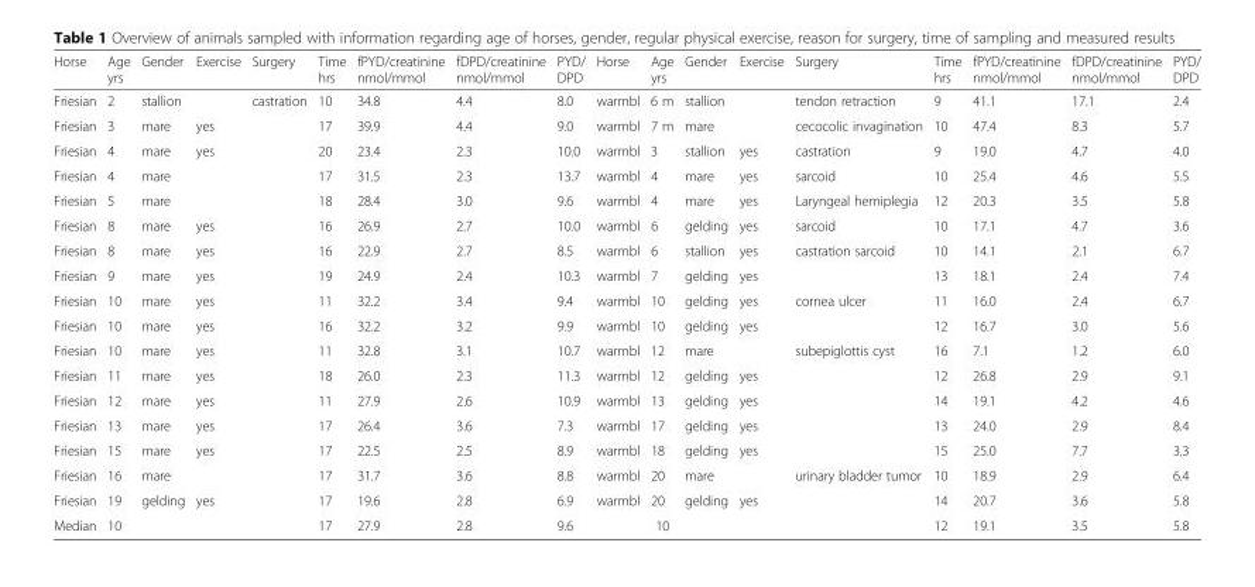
<table><thead><tr><td>Horse</td><td>Age yrs</td><td>Gender</td><td>Exercise</td><td>Surgery</td><td>Time hrs</td><td>fPYD/creatinine nmol/mmol</td><td>fDPD/creatinine nmol/mmol</td><td>PYD/ DPD</td><td>Horse</td><td>Age yrs</td><td>Gender</td><td>Exercise</td><td>Surgery</td><td>Time hrs</td><td>fPYD/creatinine nmol/mmol</td><td>fDPD/creatinine nmol/mmol</td><td>PYD/ DPD</td></tr></thead><tbody><tr><td>Friesian</td><td>2</td><td>stallion</td><td></td><td>castration</td><td>10</td><td>34.8</td><td>4.4</td><td>8.0</td><td>warmbl</td><td>6 m</td><td>stallion</td><td></td><td>tendon retraction</td><td>9</td><td>41.1</td><td>17.1</td><td>2.4</td></tr><tr><td>Friesian</td><td>3</td><td>mare</td><td>yes</td><td></td><td>17</td><td>39.9</td><td>4.4</td><td>9.0</td><td>warmbl</td><td>7 m</td><td>mare</td><td></td><td>cecocolic invagination</td><td>10</td><td>47.4</td><td>8.3</td><td>5.7</td></tr><tr><td>Friesian</td><td>4</td><td>mare</td><td>yes</td><td></td><td>20</td><td>23.4</td><td>2.3</td><td>10.0</td><td>warmbl</td><td>3</td><td>stallion</td><td>yes</td><td>castration</td><td>9</td><td>19.0</td><td>4.7</td><td>4.0</td></tr><tr><td>Friesian</td><td>4</td><td>mare</td><td></td><td></td><td>17</td><td>31.5</td><td>2.3</td><td>13.7</td><td>warmbl</td><td>4</td><td>mare</td><td>yes</td><td>sarcoid</td><td>10</td><td>25.4</td><td>4.6</td><td>5.5</td></tr><tr><td>Friesian</td><td>5</td><td>mare</td><td></td><td></td><td>18</td><td>28.4</td><td>3.0</td><td>9.6</td><td>warmbl</td><td>4</td><td>mare</td><td>yes</td><td>Laryngeal hemiplegia</td><td>12</td><td>20.3</td><td>3.5</td><td>5.8</td></tr><tr><td>Friesian</td><td>8</td><td>mare</td><td>yes</td><td></td><td>16</td><td>26.9</td><td>2.7</td><td>10.0</td><td>warmbl</td><td>6</td><td>gelding</td><td>yes</td><td>sarcoid</td><td>10</td><td>17.1</td><td>4.7</td><td>3.6</td></tr><tr><td>Friesian</td><td>8</td><td>mare</td><td>yes</td><td></td><td>16</td><td>22.9</td><td>2.7</td><td>8.5</td><td>warmbl</td><td>6</td><td>stallion</td><td>yes</td><td>castration sarcoid</td><td>10</td><td>14.1</td><td>2.1</td><td>6.7</td></tr><tr><td>Friesian</td><td>9</td><td>mare</td><td>yes</td><td></td><td>19</td><td>24.9</td><td>2.4</td><td>10.3</td><td>warmbl</td><td>7</td><td>gelding</td><td>yes</td><td></td><td>13</td><td>18.1</td><td>2.4</td><td>7.4</td></tr><tr><td>Friesian</td><td>10</td><td>mare</td><td>yes</td><td></td><td>11</td><td>32.2</td><td>3.4</td><td>9.4</td><td>warmbl</td><td>10</td><td>gelding</td><td>yes</td><td>cornea ulcer</td><td>11</td><td>16.0</td><td>2.4</td><td>6.7</td></tr><tr><td>Friesian</td><td>10</td><td>mare</td><td>yes</td><td></td><td>16</td><td>32.2</td><td>3.2</td><td>9.9</td><td>warmbl</td><td>10</td><td>gelding</td><td>yes</td><td></td><td>12</td><td>16.7</td><td>3.0</td><td>5.6</td></tr><tr><td>Friesian</td><td>10</td><td>mare</td><td>yes</td><td></td><td>11</td><td>32.8</td><td>3.1</td><td>10.7</td><td>warmbl</td><td>12</td><td>mare</td><td></td><td>subepiglottis cyst</td><td>16</td><td>7.1</td><td>1.2</td><td>6.0</td></tr><tr><td>Friesian</td><td>11</td><td>mare</td><td>yes</td><td></td><td>18</td><td>26.0</td><td>2.3</td><td>11.3</td><td>warmbl</td><td>12</td><td>gelding</td><td>yes</td><td></td><td>12</td><td>26.8</td><td>2.9</td><td>9.1</td></tr><tr><td>Friesian</td><td>12</td><td>mare</td><td>yes</td><td></td><td>11</td><td>27.9</td><td>2.6</td><td>10.9</td><td>warmbl</td><td>13</td><td>gelding</td><td>yes</td><td></td><td>14</td><td>19.1</td><td>4.2</td><td>4.6</td></tr><tr><td>Friesian</td><td>13</td><td>mare</td><td>yes</td><td></td><td>17</td><td>26.4</td><td>3.6</td><td>7.3</td><td>warmbl</td><td>17</td><td>gelding</td><td>yes</td><td></td><td>13</td><td>24.0</td><td>2.9</td><td>8.4</td></tr><tr><td>Friesian</td><td>15</td><td>mare</td><td>yes</td><td></td><td>17</td><td>22.5</td><td>2.5</td><td>8.9</td><td>warmbl</td><td>18</td><td>gelding</td><td>yes</td><td></td><td>15</td><td>25.0</td><td>7.7</td><td>3.3</td></tr><tr><td>Friesian</td><td>16</td><td>mare</td><td></td><td></td><td>17</td><td>31.7</td><td>3.6</td><td>8.8</td><td>warmbl</td><td>20</td><td>mare</td><td></td><td>urinary bladder tumor</td><td>10</td><td>18.9</td><td>2.9</td><td>6.4</td></tr><tr><td>Friesian</td><td>19</td><td>gelding</td><td>yes</td><td></td><td>17</td><td>19.6</td><td>2.8</td><td>6.9</td><td>warmbl</td><td>20</td><td>gelding</td><td>yes</td><td></td><td>14</td><td>20.7</td><td>3.6</td><td>5.8</td></tr><tr><td>Median</td><td>10</td><td></td><td></td><td></td><td>17</td><td>27.9</td><td>2.8</td><td>9.6</td><td></td><td>10</td><td></td><td></td><td></td><td>12</td><td>19.1</td><td>3.5</td><td>5.8</td></tr></tbody></table>